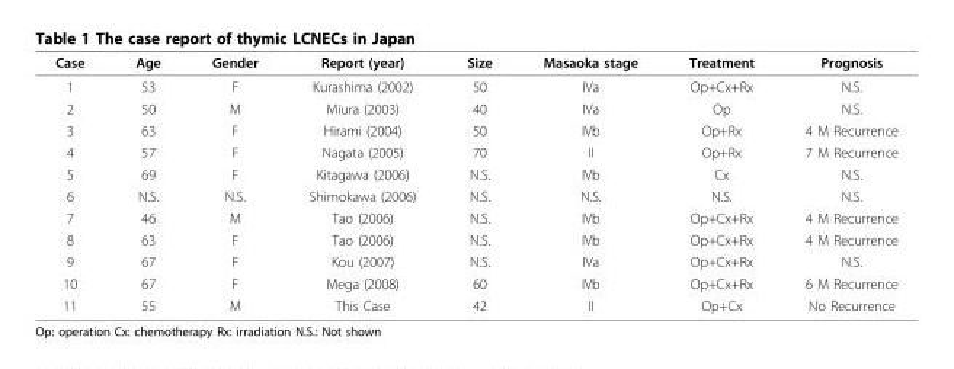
<table><thead><tr><td>Case</td><td>Age</td><td>Gender</td><td>Report (year)</td><td>Size</td><td>Masaoka stage</td><td>Treatment</td><td>Prognosis</td></tr></thead><tbody><tr><td>1</td><td>53</td><td>F</td><td>Kurashima (2002)</td><td>50</td><td>IVa</td><td>Op+Cx+Rx</td><td>N.S.</td></tr><tr><td>2</td><td>50</td><td>M</td><td>Miura (2003)</td><td>40</td><td>IVa</td><td>Op</td><td>N.S.</td></tr><tr><td>3</td><td>63</td><td>F</td><td>Hirami (2004)</td><td>50</td><td>IVb</td><td>Op+Rx</td><td>4 M Recurrence</td></tr><tr><td>4</td><td>57</td><td>F</td><td>Nagata (2005)</td><td>70</td><td>II</td><td>Op+Rx</td><td>7 M Recurrence</td></tr><tr><td>5</td><td>69</td><td>F</td><td>Kitagawa (2006)</td><td>N.S.</td><td>IVb</td><td>Cx</td><td>N.S.</td></tr><tr><td>6</td><td>N.S.</td><td>N.S.</td><td>Shimokawa (2006)</td><td>N.S.</td><td>N.S.</td><td>N.S.</td><td>N.S.</td></tr><tr><td>7</td><td>46</td><td>M</td><td>Tao (2006)</td><td>N.S.</td><td>IVb</td><td>Op+Cx+Rx</td><td>4 M Recurrence</td></tr><tr><td>8</td><td>63</td><td>F</td><td>Tao (2006)</td><td>N.S.</td><td>IVb</td><td>Op+Cx+Rx</td><td>4 M Recurrence</td></tr><tr><td>9</td><td>67</td><td>F</td><td>Kou (2007)</td><td>N.S.</td><td>IVa</td><td>Op+Cx+Rx</td><td>N.S.</td></tr><tr><td>10</td><td>67</td><td>F</td><td>Mega (2008)</td><td>60</td><td>IVb</td><td>Op+Cx+Rx</td><td>6 M Recurrence</td></tr><tr><td>11</td><td>55</td><td>M</td><td>This Case</td><td>42</td><td>II</td><td>Op+Cx</td><td>No Recurrence</td></tr></tbody></table>